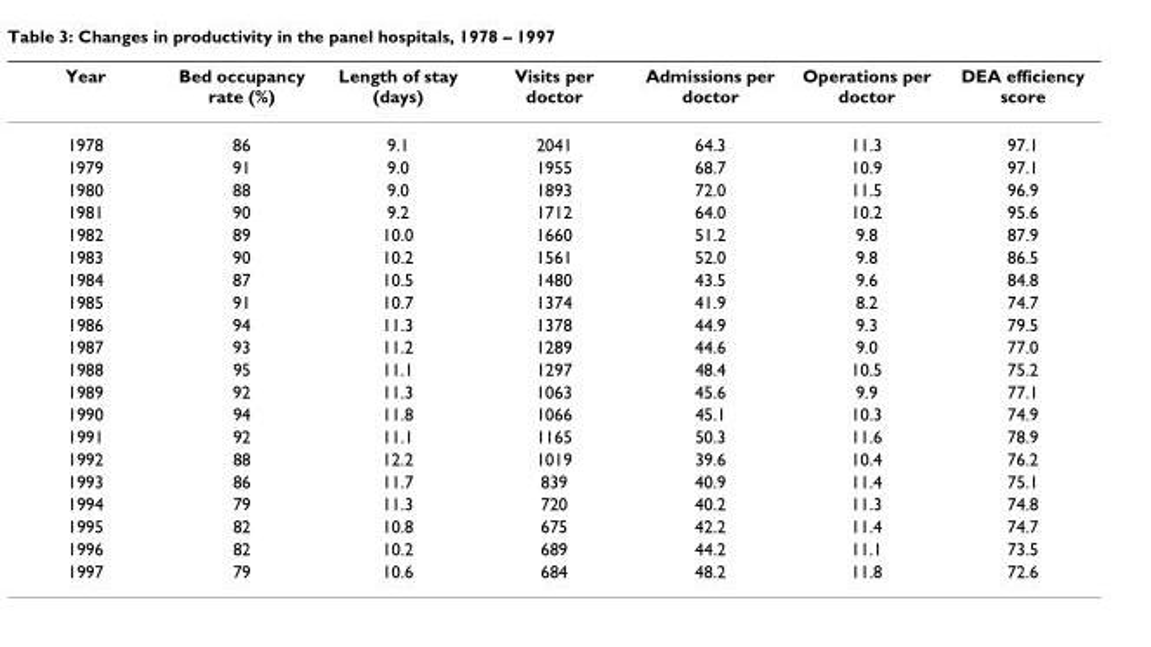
<table><thead><tr><td>Year</td><td>Bed occupancy rate (%)</td><td>Length of stay (days)</td><td>Visits per doctor</td><td>Admissions per doctor</td><td>Operations per doctor</td><td>DEA efficiency score</td></tr></thead><tbody><tr><td>1978</td><td>86</td><td>9.1</td><td>2041</td><td>64.3</td><td>11.3</td><td>97.1</td></tr><tr><td>1979</td><td>91</td><td>9.0</td><td>1955</td><td>68.7</td><td>10.9</td><td>97.1</td></tr><tr><td>1980</td><td>88</td><td>9.0</td><td>1893</td><td>72.0</td><td>11.5</td><td>96.9</td></tr><tr><td>1981</td><td>90</td><td>9.2</td><td>1712</td><td>64.0</td><td>10.2</td><td>95.6</td></tr><tr><td>1982</td><td>89</td><td>10.0</td><td>1660</td><td>51.2</td><td>9.8</td><td>87.9</td></tr><tr><td>1983</td><td>90</td><td>10.2</td><td>1561</td><td>52.0</td><td>9.8</td><td>86.5</td></tr><tr><td>1984</td><td>87</td><td>10.5</td><td>1480</td><td>43.5</td><td>9.6</td><td>84.8</td></tr><tr><td>1985</td><td>91</td><td>10.7</td><td>1374</td><td>41.9</td><td>8.2</td><td>74.7</td></tr><tr><td>1986</td><td>94</td><td>11.3</td><td>1378</td><td>44.9</td><td>9.3</td><td>79.5</td></tr><tr><td>1987</td><td>93</td><td>11.2</td><td>1289</td><td>44.6</td><td>9.0</td><td>77.0</td></tr><tr><td>1988</td><td>95</td><td>11.1</td><td>1297</td><td>48.4</td><td>10.5</td><td>75.2</td></tr><tr><td>1989</td><td>92</td><td>11.3</td><td>1063</td><td>45.6</td><td>9.9</td><td>77.1</td></tr><tr><td>1990</td><td>94</td><td>11.8</td><td>1066</td><td>45.1</td><td>10.3</td><td>74.9</td></tr><tr><td>1991</td><td>92</td><td>11.1</td><td>1165</td><td>50.3</td><td>11.6</td><td>78.9</td></tr><tr><td>1992</td><td>88</td><td>12.2</td><td>1019</td><td>39.6</td><td>10.4</td><td>76.2</td></tr><tr><td>1993</td><td>86</td><td>11.7</td><td>839</td><td>40.9</td><td>11.4</td><td>75.1</td></tr><tr><td>1994</td><td>79</td><td>11.3</td><td>720</td><td>40.2</td><td>11.3</td><td>74.8</td></tr><tr><td>1995</td><td>82</td><td>10.8</td><td>675</td><td>42.2</td><td>11.4</td><td>74.7</td></tr><tr><td>1996</td><td>82</td><td>10.2</td><td>689</td><td>44.2</td><td>11.1</td><td>73.5</td></tr><tr><td>1997</td><td>79</td><td>10.6</td><td>684</td><td>48.2</td><td>11.8</td><td>72.6</td></tr></tbody></table>